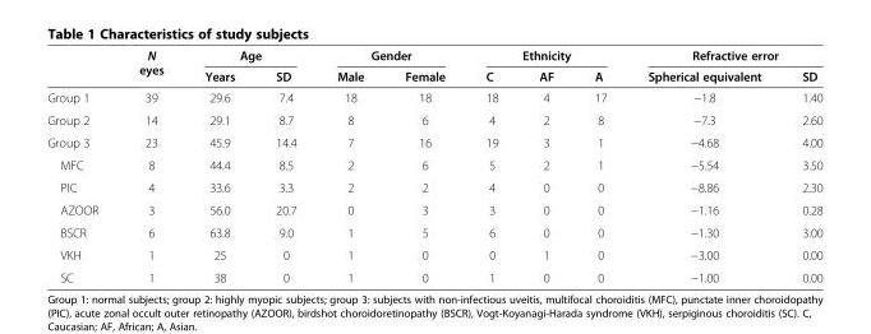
<table><thead><tr><td rowspan="2"></td><td rowspan="2">N eyes</td><td colspan="2">Age</td><td colspan="2">Gender</td><td colspan="3">Ethnicity</td><td colspan="2">Refractive error</td></tr><tr><td>Years</td><td>SD</td><td>Male</td><td>Female</td><td>C</td><td>AF</td><td>A</td><td>Spherical equivalent</td><td>SD</td></tr></thead><tbody><tr><td>Group 1</td><td>39</td><td>29.6</td><td>7.4</td><td>18</td><td>18</td><td>18</td><td>4</td><td>17</td><td>−1.8</td><td>1.40</td></tr><tr><td>Group 2</td><td>14</td><td>29.1</td><td>8.7</td><td>8</td><td>6</td><td>4</td><td>2</td><td>8</td><td>−7.3</td><td>2.60</td></tr><tr><td>Group 3</td><td>23</td><td>45.9</td><td>14.4</td><td>7</td><td>16</td><td>19</td><td>3</td><td>1</td><td>−4.68</td><td>4.00</td></tr><tr><td>MFC</td><td>8</td><td>44.4</td><td>8.5</td><td>2</td><td>6</td><td>5</td><td>2</td><td>1</td><td>−5.54</td><td>3.50</td></tr><tr><td>PIC</td><td>4</td><td>33.6</td><td>3.3</td><td>2</td><td>2</td><td>4</td><td>0</td><td>0</td><td>−8.86</td><td>2.30</td></tr><tr><td>AZOOR</td><td>3</td><td>56.0</td><td>20.7</td><td>0</td><td>3</td><td>3</td><td>0</td><td>0</td><td>−1.16</td><td>0.28</td></tr><tr><td>BSCR</td><td>6</td><td>63.8</td><td>9.0</td><td>1</td><td>5</td><td>6</td><td>0</td><td>0</td><td>−1.30</td><td>3.00</td></tr><tr><td>VKH</td><td>1</td><td>25</td><td>0</td><td>1</td><td>0</td><td>0</td><td>1</td><td>0</td><td>−3.00</td><td>0.00</td></tr><tr><td>SC</td><td>1</td><td>38</td><td>0</td><td>1</td><td>0</td><td>1</td><td>0</td><td>0</td><td>−1.00</td><td>0.00</td></tr></tbody></table>